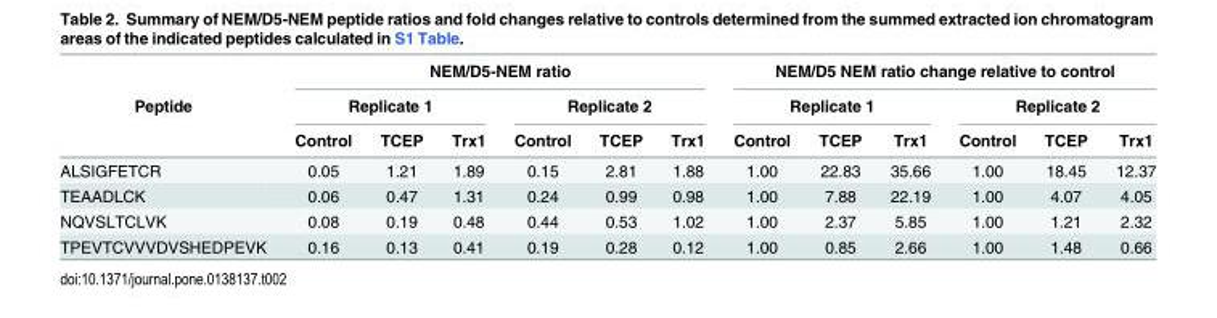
<table><thead><tr><td rowspan="3">Peptide</td><td colspan="6">NEM/D5-NEM ratio</td><td colspan="6">NEM/D5 NEM ratio change relative to control</td></tr><tr><td colspan="3">Replicate 1</td><td colspan="3">Replicate 2</td><td colspan="3">Replicate 1</td><td colspan="3">Replicate 2</td></tr><tr><td>Control</td><td>TCEP</td><td>Trx1</td><td>Control</td><td>TCEP</td><td>Trx1</td><td>Control</td><td>TCEP</td><td>Trx1</td><td>Control</td><td>TCEP</td><td>Trx1</td></tr></thead><tbody><tr><td>ALSIGFETCR</td><td>0.05</td><td>1.21</td><td>1.89</td><td>0.15</td><td>2.81</td><td>1.88</td><td>1.00</td><td>22.83</td><td>35.66</td><td>1.00</td><td>18.45</td><td>12.37</td></tr><tr><td>TEAADLCK</td><td>0.06</td><td>0.47</td><td>1.31</td><td>0.24</td><td>0.99</td><td>0.98</td><td>1.00</td><td>7.88</td><td>22.19</td><td>1.00</td><td>4.07</td><td>4.05</td></tr><tr><td>NQVSLTCLVK</td><td>0.08</td><td>0.19</td><td>0.48</td><td>0.44</td><td>0.53</td><td>1.02</td><td>1.00</td><td>2.37</td><td>5.85</td><td>1.00</td><td>1.21</td><td>2.32</td></tr><tr><td>TPEVTCVVVDVSHEDPEVK</td><td>0.16</td><td>0.13</td><td>0.41</td><td>0.19</td><td>0.28</td><td>0.12</td><td>1.00</td><td>0.85</td><td>2.66</td><td>1.00</td><td>1.48</td><td>0.66</td></tr></tbody></table>